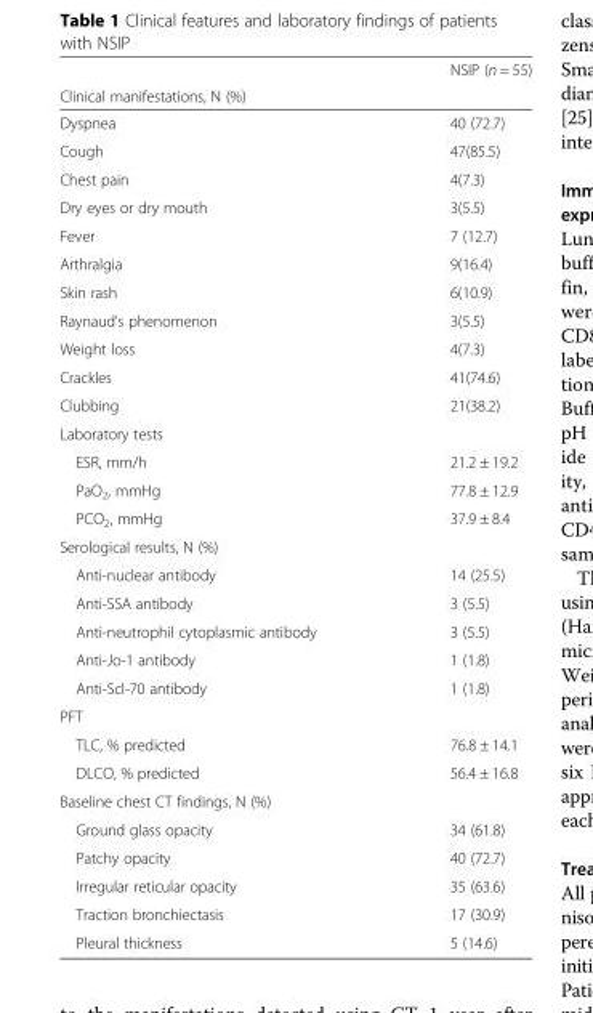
<table><thead><tr><td></td><td>NSIP (n = 55)</td></tr><tr><td colspan="2">Clinical manifestations, N (%)</td></tr></thead><tbody><tr><td>Dyspnea</td><td>40 (72.7)</td></tr><tr><td>Cough</td><td>47(85.5)</td></tr><tr><td>Chest pain</td><td>4(7.3)</td></tr><tr><td>Dry eyes or dry mouth</td><td>3(5.5)</td></tr><tr><td>Fever</td><td>7 (12.7)</td></tr><tr><td>Arthralgia</td><td>9(16.4)</td></tr><tr><td>Skin rash</td><td>6(10.9)</td></tr><tr><td>Raynaud’s phenomenon</td><td>3(5.5)</td></tr><tr><td>Weight loss</td><td>4(7.3)</td></tr><tr><td>Crackles</td><td>41(74.6)</td></tr><tr><td>Clubbing</td><td>21(38.2)</td></tr><tr><td colspan="2">Laboratory tests</td></tr><tr><td>ESR, mm/h</td><td>21.2 ± 19.2</td></tr><tr><td>PaO<sub>2</sub>, mmHg</td><td>77.8 ± 12.9</td></tr><tr><td>PCO<sub>2</sub>, mmHg</td><td>37.9 ± 8.4</td></tr><tr><td colspan="2">Serological results, N (%)</td></tr><tr><td>Anti-nuclear antibody</td><td>14 (25.5)</td></tr><tr><td>Anti-SSA antibody</td><td>3 (5.5)</td></tr><tr><td>Anti-neutrophil cytoplasmic antibody</td><td>3 (5.5)</td></tr><tr><td>Anti-Jo-1 antibody</td><td>1 (1.8)</td></tr><tr><td>Anti-Scl-70 antibody</td><td>1 (1.8)</td></tr><tr><td colspan="2">PFT</td></tr><tr><td>TLC, % predicted</td><td>76.8 ± 14.1</td></tr><tr><td>DLCO, % predicted</td><td>56.4 ± 16.8</td></tr><tr><td colspan="2">Baseline chest CT findings, N (%)</td></tr><tr><td>Ground glass opacity</td><td>34 (61.8)</td></tr><tr><td>Patchy opacity</td><td>40 (72.7)</td></tr><tr><td>Irregular reticular opacity</td><td>35 (63.6)</td></tr><tr><td>Traction bronchiectasis</td><td>17 (30.9)</td></tr><tr><td>Pleural thickness</td><td>5 (14.6)</td></tr></tbody></table>